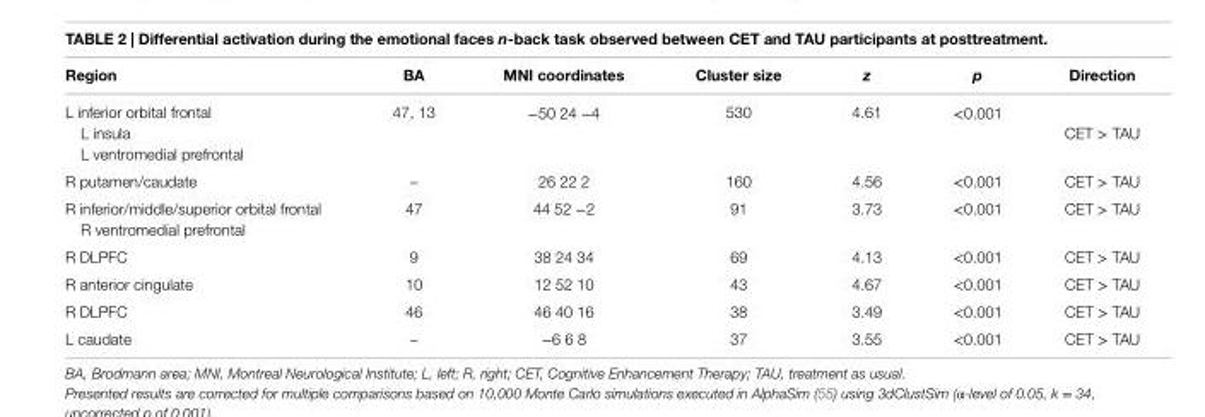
<table><thead><tr><td>region</td><td>Ba</td><td>Mni coordinates</td><td>cluster size</td><td>z</td><td>p</td><td>Direction</td></tr></thead><tbody><tr><td>L inferior orbital frontal</td><td rowspan="3">47, 13</td><td rowspan="3">−50 24 −4</td><td rowspan="3">530</td><td rowspan="3">4.61</td><td rowspan="3">&lt;0.001</td><td rowspan="3">CET &gt; TAU</td></tr><tr><td>L insula</td></tr><tr><td>L ventromedial prefrontal</td></tr><tr><td>R putamen/caudate</td><td>–</td><td>26 22 2</td><td>160</td><td>4.56</td><td>&lt;0.001</td><td>CET &gt; TAU</td></tr><tr><td>R inferior/middle/superior orbital frontal</td><td rowspan="2">47</td><td rowspan="2">44 52 −2</td><td rowspan="2">91</td><td rowspan="2">3.73</td><td rowspan="2">&lt;0.001</td><td rowspan="2">CET &gt; TAU</td></tr><tr><td>R ventromedial prefrontal</td></tr><tr><td>R DLPFC</td><td>9</td><td>38 24 34</td><td>69</td><td>4.13</td><td>&lt;0.001</td><td>CET &gt; TAU</td></tr><tr><td>R anterior cingulate</td><td>10</td><td>12 52 10</td><td>43</td><td>4.67</td><td>&lt;0.001</td><td>CET &gt; TAU</td></tr><tr><td>R DLPFC</td><td>46</td><td>46 40 16</td><td>38</td><td>3.49</td><td>&lt;0.001</td><td>CET &gt; TAU</td></tr><tr><td>L caudate</td><td>–</td><td>−6 6 8</td><td>37</td><td>3.55</td><td>&lt;0.001</td><td>CET &gt; TAU</td></tr></tbody></table>